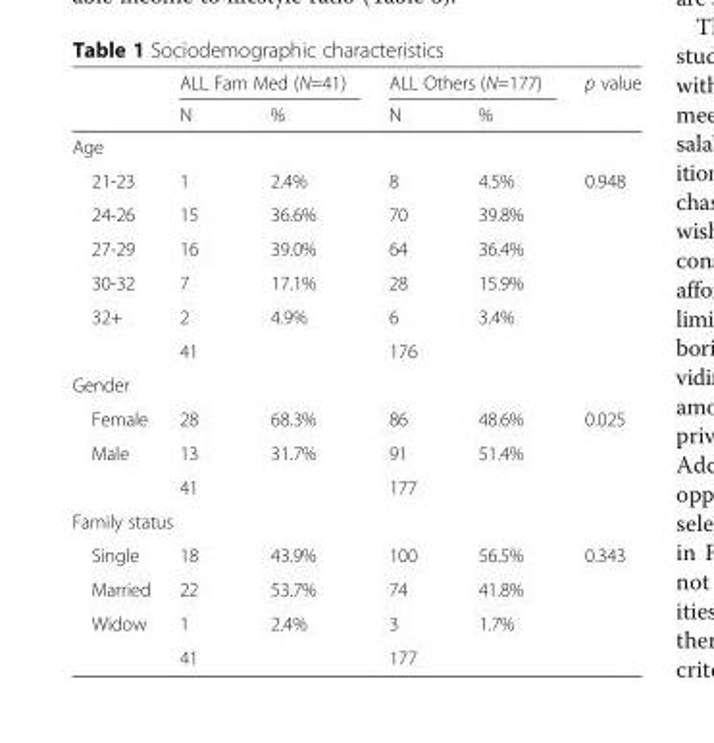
<table><thead><tr><td rowspan="2"></td><td colspan="2">ALL Fam Med (N=41)</td><td colspan="2">ALL Others (N=177)</td><td rowspan="2">p value</td></tr><tr><td>N</td><td>%</td><td>N</td><td>%</td></tr></thead><tbody><tr><td colspan="6">Age</td></tr><tr><td>21-23</td><td>1</td><td>2.4%</td><td>8</td><td>4.5%</td><td rowspan="6">0.948</td></tr><tr><td>24-26</td><td>15</td><td>36.6%</td><td>70</td><td>39.8%</td></tr><tr><td>27-29</td><td>16</td><td>39.0%</td><td>64</td><td>36.4%</td></tr><tr><td>30-32</td><td>7</td><td>17.1%</td><td>28</td><td>15.9%</td></tr><tr><td rowspan="2">32+</td><td>2</td><td>4.9%</td><td>6</td><td>3.4%</td></tr><tr><td>41</td><td></td><td>176</td><td></td></tr><tr><td colspan="6">Gender</td></tr><tr><td>Female</td><td>28</td><td>68.3%</td><td>86</td><td>48.6%</td><td rowspan="3">0.025</td></tr><tr><td rowspan="2">Male</td><td>13</td><td>31.7%</td><td>91</td><td>51.4%</td></tr><tr><td>41</td><td></td><td>177</td><td></td></tr><tr><td colspan="6">Family status</td></tr><tr><td>Single</td><td>18</td><td>43.9%</td><td>100</td><td>56.5%</td><td rowspan="3">0.343</td></tr><tr><td>Married</td><td>22</td><td>53.7%</td><td>74</td><td>41.8%</td></tr><tr><td rowspan="2">Widow</td><td>1</td><td>2.4%</td><td>3</td><td>1.7%</td></tr><tr><td>41</td><td></td><td>177</td><td></td><td></td></tr></tbody></table>